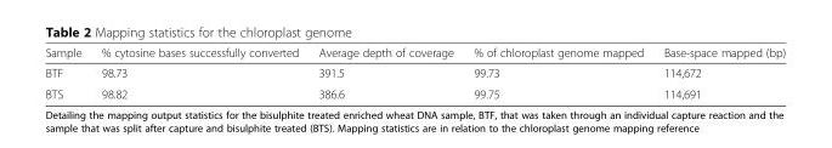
<table><thead><tr><td>Sample</td><td>% cytosine bases successfully converted</td><td>Average depth of coverage</td><td>% of chloroplast genome mapped</td><td>Base-space mapped (bp)</td></tr></thead><tbody><tr><td>BTF</td><td>98.73</td><td>391.5</td><td>99.73</td><td>114,672</td></tr><tr><td>BTS</td><td>98.82</td><td>386.6</td><td>99.75</td><td>114,691</td></tr></tbody></table>